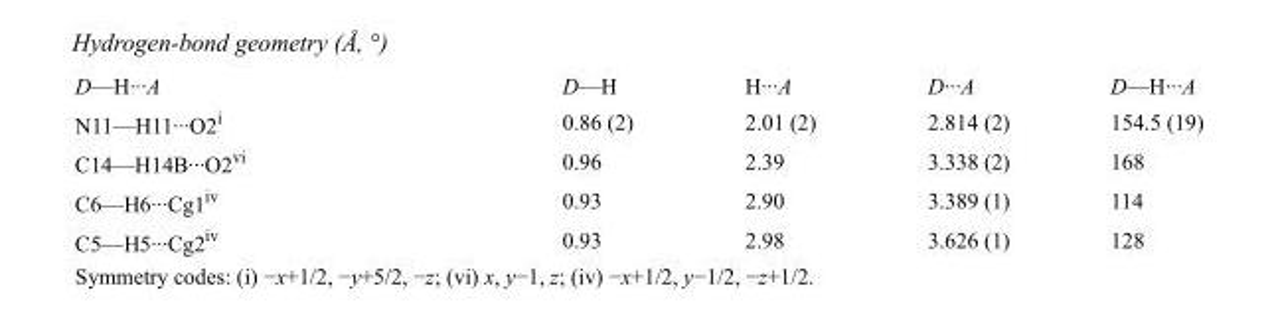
<table><tbody><tr><td>D—H···A</td><td>D—H</td><td>H···A</td><td>D···A</td><td>D—H···A</td></tr><tr><td>N11—H11···O2<sup>i</sup></td><td>0.86 (2)</td><td>2.01 (2)</td><td>2.814 (2)</td><td>154.5 (19)</td></tr><tr><td>C14—H14B···O2<sup>vi</sup></td><td>0.96</td><td>2.39</td><td>3.338 (2)</td><td>168</td></tr><tr><td>C6—H6···Cg1<sup>iv</sup></td><td>0.93</td><td>2.90</td><td>3.389 (1)</td><td>114</td></tr><tr><td>C5—H5···Cg2<sup>iv</sup></td><td>0.93</td><td>2.98</td><td>3.626 (1)</td><td>128</td></tr></tbody></table>